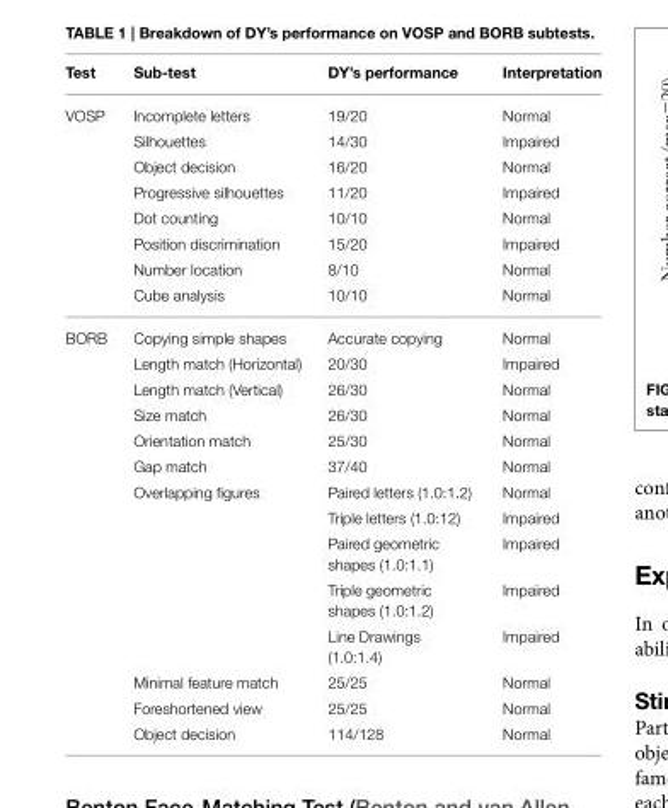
<table><thead><tr><td>Test</td><td>Sub-test</td><td>DY’s performance</td><td>Interpretation</td></tr></thead><tbody><tr><td rowspan="8">VOSP</td><td>Incomplete letters</td><td>19/20</td><td>Normal</td></tr><tr><td>Silhouettes</td><td>14/30</td><td>Impaired</td></tr><tr><td>Object decision</td><td>16/20</td><td>Normal</td></tr><tr><td>Progressive silhouettes</td><td>11/20</td><td>Impaired</td></tr><tr><td>Dot counting</td><td>10/10</td><td>Normal</td></tr><tr><td>Position discrimination</td><td>15/20</td><td>Impaired</td></tr><tr><td>Number location</td><td>8/10</td><td>Normal</td></tr><tr><td>Cube analysis</td><td>10/10</td><td>Normal</td></tr><tr><td rowspan="14">BORB</td><td>Copying simple shapes</td><td>Accurate copying</td><td>Normal</td></tr><tr><td>Length match (Horizontal)</td><td>20/30</td><td>Impaired</td></tr><tr><td>Length match (Vertical)</td><td>26/30</td><td>Normal</td></tr><tr><td>Size match</td><td>26/30</td><td>Normal</td></tr><tr><td>Orientation match</td><td>25/30</td><td>Normal</td></tr><tr><td>Gap match</td><td>37/40</td><td>Normal</td></tr><tr><td>Overlapping figures</td><td>Paired letters (1.0:1.2)</td><td>Normal</td></tr><tr><td></td><td>Triple letters (1.0:12)</td><td>Impaired</td></tr><tr><td></td><td>Paired geometric shapes (1.0:1.1)</td><td>Impaired</td></tr><tr><td></td><td>Triple geometric shapes (1.0:1.2)</td><td>Impaired</td></tr><tr><td></td><td>Line Drawings (1.0:1.4)</td><td>Impaired</td></tr><tr><td>Minimal feature match</td><td>25/25</td><td>Normal</td></tr><tr><td>Foreshortened view</td><td>25/25</td><td>Normal</td></tr><tr><td>Object decision</td><td>114/128</td><td>Normal</td></tr></tbody></table>